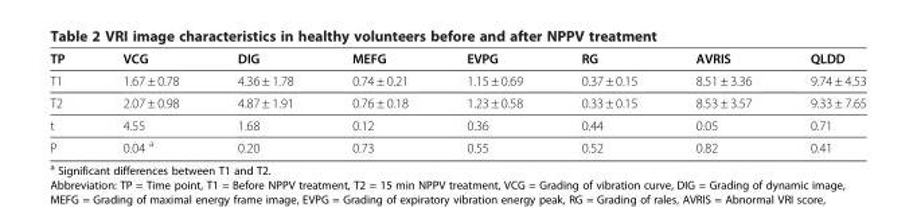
<table><thead><tr><td>TP</td><td>VCG</td><td>DIG</td><td>MEFG</td><td>EVPG</td><td>RG</td><td>AVRIS</td><td>QLDD</td></tr></thead><tbody><tr><td>T1</td><td>1.67 ± 0.78</td><td>4.36 ± 1.78</td><td>0.74 ± 0.21</td><td>1.15 ± 0.69</td><td>0.37 ± 0.15</td><td>8.51 ± 3.36</td><td>9.74 ± 4.53</td></tr><tr><td>T2</td><td>2.07 ± 0.98</td><td>4.87 ± 1.91</td><td>0.76 ± 0.18</td><td>1.23 ± 0.58</td><td>0.33 ± 0.15</td><td>8.53 ± 3.57</td><td>9.33 ± 7.65</td></tr><tr><td>t</td><td>4.55</td><td>1.68</td><td>0.12</td><td>0.36</td><td>0.44</td><td>0.05</td><td>0.71</td></tr><tr><td>P</td><td>0.04 <sup>a</sup></td><td>0.20</td><td>0.73</td><td>0.55</td><td>0.52</td><td>0.82</td><td>0.41</td></tr></tbody></table>